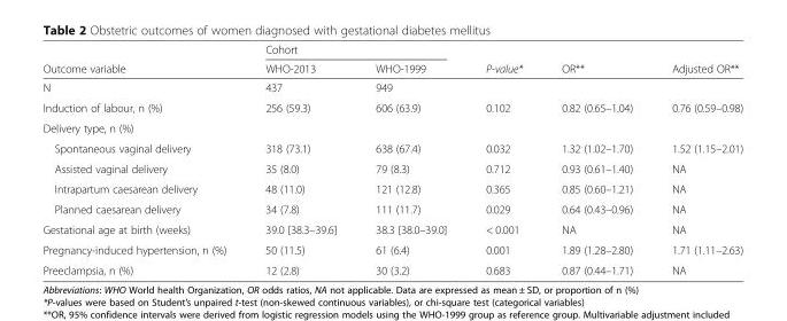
<table><thead><tr><td rowspan="2">Outcome variable</td><td colspan="2">Cohort</td><td rowspan="2">P-value*</td><td rowspan="2">OR**</td><td rowspan="2">Adjusted OR**</td></tr><tr><td>WHO-2013</td><td>WHO-1999</td></tr></thead><tbody><tr><td>N</td><td>437</td><td>949</td><td></td><td></td><td></td></tr><tr><td>Induction of labour, n (%)</td><td>256 (59.3)</td><td>606 (63.9)</td><td>0.102</td><td>0.82 (0.65–1.04)</td><td>0.76 (0.59–0.98)</td></tr><tr><td colspan="6">Delivery type, n (%)</td></tr><tr><td>Spontaneous vaginal delivery</td><td>318 (73.1)</td><td>638 (67.4)</td><td>0.032</td><td>1.32 (1.02–1.70)</td><td>1.52 (1.15–2.01)</td></tr><tr><td>Assisted vaginal delivery</td><td>35 (8.0)</td><td>79 (8.3)</td><td>0.712</td><td>0.93 (0.61–1.40)</td><td>NA</td></tr><tr><td>Intrapartum caesarean delivery</td><td>48 (11.0)</td><td>121 (12.8)</td><td>0.365</td><td>0.85 (0.60–1.21)</td><td>NA</td></tr><tr><td>Planned caesarean delivery</td><td>34 (7.8)</td><td>111 (11.7)</td><td>0.029</td><td>0.64 (0.43–0.96)</td><td>NA</td></tr><tr><td>Gestational age at birth (weeks)</td><td>39.0 [38.3–39.6]</td><td>38.3 [38.0–39.0]</td><td>&lt; 0.001</td><td>NA</td><td>NA</td></tr><tr><td>Pregnancy-induced hypertension, n (%)</td><td>50 (11.5)</td><td>61 (6.4)</td><td>0.001</td><td>1.89 (1.28–2.80)</td><td>1.71 (1.11–2.63)</td></tr><tr><td>Preeclampsia, n (%)</td><td>12 (2.8)</td><td>30 (3.2)</td><td>0.683</td><td>0.87 (0.44–1.71)</td><td>NA</td></tr></tbody></table>